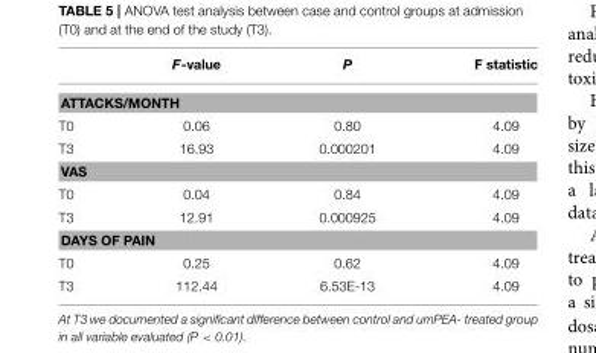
<table><thead><tr><td></td><td>F-value</td><td>P</td><td>F statistic</td></tr></thead><tbody><tr><td colspan="4">ATTACKS/MONTH</td></tr><tr><td>T0</td><td>0.06</td><td>0.80</td><td>4.09</td></tr><tr><td>T3</td><td>16.93</td><td>0.000201</td><td>4.09</td></tr><tr><td colspan="4">VAS</td></tr><tr><td>T0</td><td>0.04</td><td>0.84</td><td>4.09</td></tr><tr><td>T3</td><td>12.91</td><td>0.000925</td><td>4.09</td></tr><tr><td colspan="4">DAYS OF PAIN</td></tr><tr><td>T0</td><td>0.25</td><td>0.62</td><td>4.09</td></tr><tr><td>T3</td><td>112.44</td><td>6.53E-13</td><td>4.09</td></tr></tbody></table>